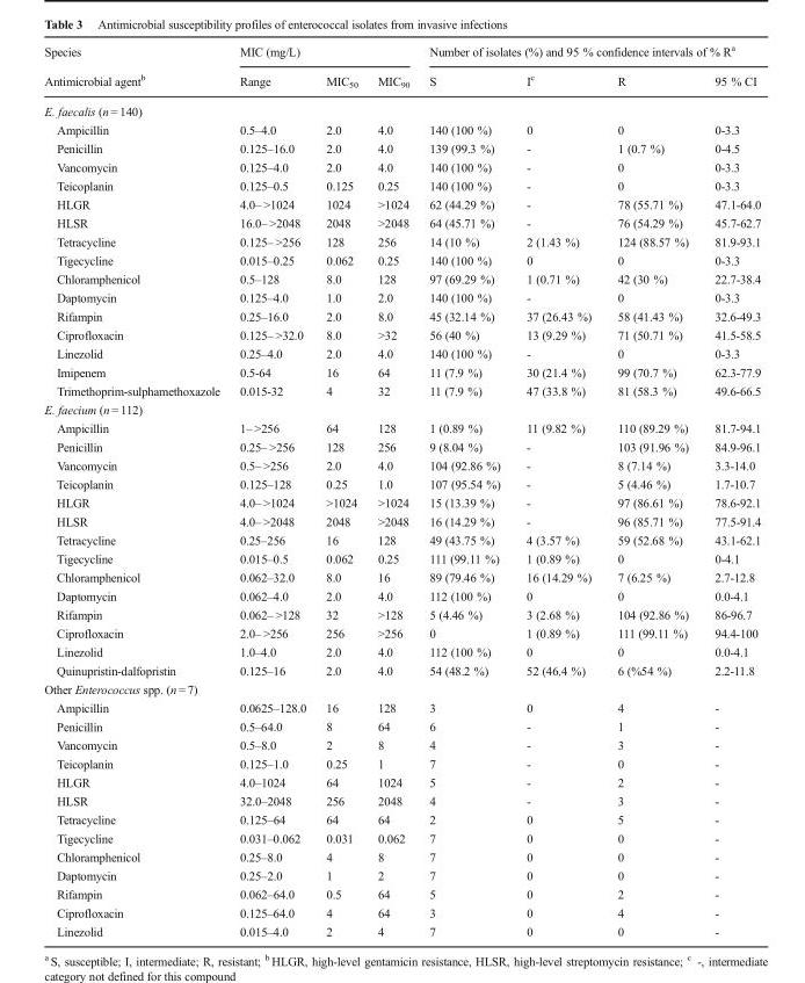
<table><thead><tr><td rowspan="2">Species Antimicrobial agent<sup>b</sup></td><td colspan="3">MIC (mg/L)</td><td colspan="4">Number of isolates (%) and 95 % confidence intervals of % R<sup>a</sup></td></tr><tr><td>Range</td><td>MIC<sub>50</sub></td><td>MIC<sub>90</sub></td><td>S</td><td>I<sup>c</sup></td><td>R</td><td>95 % CI</td></tr></thead><tbody><tr><td colspan="8">E. faecalis (n = 140)</td></tr><tr><td>Ampicillin</td><td>0.5–4.0</td><td>2.0</td><td>4.0</td><td>140 (100 %)</td><td>0</td><td>0</td><td>0-3.3</td></tr><tr><td>Penicillin</td><td>0.125–16.0</td><td>2.0</td><td>4.0</td><td>139 (99.3 %)</td><td>-</td><td>1 (0.7 %)</td><td>0-4.5</td></tr><tr><td>Vancomycin</td><td>0.125–4.0</td><td>2.0</td><td>4.0</td><td>140 (100 %)</td><td>-</td><td>0</td><td>0-3.3</td></tr><tr><td>Teicoplanin</td><td>0.125–0.5</td><td>0.125</td><td>0.25</td><td>140 (100 %)</td><td>-</td><td>0</td><td>0-3.3</td></tr><tr><td>HLGR</td><td>4.0– &gt;1024</td><td>1024</td><td>&gt;1024</td><td>62 (44.29 %)</td><td>-</td><td>78 (55.71 %)</td><td>47.1-64.0</td></tr><tr><td>HLSR</td><td>16.0– &gt;2048</td><td>2048</td><td>&gt;2048</td><td>64 (45.71 %)</td><td>-</td><td>76 (54.29 %)</td><td>45.7-62.7</td></tr><tr><td>Tetracycline</td><td>0.125– &gt;256</td><td>128</td><td>256</td><td>14 (10 %)</td><td>2 (1.43 %)</td><td>124 (88.57 %)</td><td>81.9-93.1</td></tr><tr><td>Tigecycline</td><td>0.015–0.25</td><td>0.062</td><td>0.25</td><td>140 (100 %)</td><td>0</td><td>0</td><td>0-3.3</td></tr><tr><td>Chloramphenicol</td><td>0.5–128</td><td>8.0</td><td>128</td><td>97 (69.29 %)</td><td>1 (0.71 %)</td><td>42 (30 %)</td><td>22.7-38.4</td></tr><tr><td>Daptomycin</td><td>0.125–4.0</td><td>1.0</td><td>2.0</td><td>140 (100 %)</td><td>-</td><td>0</td><td>0-3.3</td></tr><tr><td>Rifampin</td><td>0.25–16.0</td><td>2.0</td><td>8.0</td><td>45 (32.14 %)</td><td>37 (26.43 %)</td><td>58 (41.43 %)</td><td>32.6-49.3</td></tr><tr><td>Ciprofloxacin</td><td>0.125– &gt;32.0</td><td>8.0</td><td>&gt;32</td><td>56 (40 %)</td><td>13 (9.29 %)</td><td>71 (50.71 %)</td><td>41.5-58.5</td></tr><tr><td>Linezolid</td><td>0.25–4.0</td><td>2.0</td><td>4.0</td><td>140 (100 %)</td><td>-</td><td>0</td><td>0-3.3</td></tr><tr><td>Imipenem</td><td>0.5-64</td><td>16</td><td>64</td><td>11 (7.9 %)</td><td>30 (21.4 %)</td><td>99 (70.7 %)</td><td>62.3-77.9</td></tr><tr><td>Trimethoprim-sulphamethoxazole</td><td>0.015-32</td><td>4</td><td>32</td><td>11 (7.9 %)</td><td>47 (33.8 %)</td><td>81 (58.3 %)</td><td>49.6-66.5</td></tr><tr><td colspan="8">E. faecium (n = 112)</td></tr><tr><td>Ampicillin</td><td>1– &gt;256</td><td>64</td><td>128</td><td>1 (0.89 %)</td><td>11 (9.82 %)</td><td>110 (89.29 %)</td><td>81.7-94.1</td></tr><tr><td>Penicillin</td><td>0.25– &gt;256</td><td>128</td><td>256</td><td>9 (8.04 %)</td><td>-</td><td>103 (91.96 %)</td><td>84.9-96.1</td></tr><tr><td>Vancomycin</td><td>0.5– &gt;256</td><td>2.0</td><td>4.0</td><td>104 (92.86 %)</td><td>-</td><td>8 (7.14 %)</td><td>3.3-14.0</td></tr><tr><td>Teicoplanin</td><td>0.125–128</td><td>0.25</td><td>1.0</td><td>107 (95.54 %)</td><td>-</td><td>5 (4.46 %)</td><td>1.7-10.7</td></tr><tr><td>HLGR</td><td>4.0– &gt;1024</td><td>&gt;1024</td><td>&gt;1024</td><td>15 (13.39 %)</td><td>-</td><td>97 (86.61 %)</td><td>78.6-92.1</td></tr><tr><td>HLSR</td><td>4.0– &gt;2048</td><td>2048</td><td>&gt;2048</td><td>16 (14.29 %)</td><td>-</td><td>96 (85.71 %)</td><td>77.5-91.4</td></tr><tr><td>Tetracycline</td><td>0.25–256</td><td>16</td><td>128</td><td>49 (43.75 %)</td><td>4 (3.57 %)</td><td>59 (52.68 %)</td><td>43.1-62.1</td></tr><tr><td>Tigecycline</td><td>0.015–0.5</td><td>0.062</td><td>0.25</td><td>111 (99.11 %)</td><td>1 (0.89 %)</td><td>0</td><td>0-4.1</td></tr><tr><td>Chloramphenicol</td><td>0.062–32.0</td><td>8.0</td><td>16</td><td>89 (79.46 %)</td><td>16 (14.29 %)</td><td>7 (6.25 %)</td><td>2.7-12.8</td></tr><tr><td>Daptomycin</td><td>0.062–4.0</td><td>2.0</td><td>4.0</td><td>112 (100 %)</td><td>0</td><td>0</td><td>0.0-4.1</td></tr><tr><td>Rifampin</td><td>0.062– &gt;128</td><td>32</td><td>&gt;128</td><td>5 (4.46 %)</td><td>3 (2.68 %)</td><td>104 (92.86 %)</td><td>86-96.7</td></tr><tr><td>Ciprofloxacin</td><td>2.0– &gt;256</td><td>256</td><td>&gt;256</td><td>0</td><td>1 (0.89 %)</td><td>111 (99.11 %)</td><td>94.4-100</td></tr><tr><td>Linezolid</td><td>1.0–4.0</td><td>2.0</td><td>4.0</td><td>112 (100 %)</td><td>0</td><td>0</td><td>0.0-4.1</td></tr><tr><td>Quinupristin-dalfopristin</td><td>0.125–16</td><td>2.0</td><td>4.0</td><td>54 (48.2 %)</td><td>52 (46.4 %)</td><td>6 (%54 %)</td><td>2.2-11.8</td></tr><tr><td colspan="8">Other Enterococcus spp. (n = 7)</td></tr><tr><td>Ampicillin</td><td>0.0625–128.0</td><td>16</td><td>128</td><td>3</td><td>0</td><td>4</td><td>-</td></tr><tr><td>Penicillin</td><td>0.5–64.0</td><td>8</td><td>64</td><td>6</td><td>-</td><td>1</td><td>-</td></tr><tr><td>Vancomycin</td><td>0.5–8.0</td><td>2</td><td>8</td><td>4</td><td>-</td><td>3</td><td>-</td></tr><tr><td>Teicoplanin</td><td>0.125–1.0</td><td>0.25</td><td>1</td><td>7</td><td>-</td><td>0</td><td>-</td></tr><tr><td>HLGR</td><td>4.0–1024</td><td>64</td><td>1024</td><td>5</td><td>-</td><td>2</td><td>-</td></tr><tr><td>HLSR</td><td>32.0–2048</td><td>256</td><td>2048</td><td>4</td><td>-</td><td>3</td><td>-</td></tr><tr><td>Tetracycline</td><td>0.125–64</td><td>64</td><td>64</td><td>2</td><td>0</td><td>5</td><td>-</td></tr><tr><td>Tigecycline</td><td>0.031–0.062</td><td>0.031</td><td>0.062</td><td>7</td><td>0</td><td>0</td><td>-</td></tr><tr><td>Chloramphenicol</td><td>0.25–8.0</td><td>4</td><td>8</td><td>7</td><td>0</td><td>0</td><td>-</td></tr><tr><td>Daptomycin</td><td>0.25–2.0</td><td>1</td><td>2</td><td>7</td><td>0</td><td>0</td><td>-</td></tr><tr><td>Rifampin</td><td>0.062–64.0</td><td>0.5</td><td>64</td><td>5</td><td>0</td><td>2</td><td>-</td></tr><tr><td>Ciprofloxacin</td><td>0.125–64.0</td><td>4</td><td>64</td><td>3</td><td>0</td><td>4</td><td>-</td></tr><tr><td>Linezolid</td><td>0.015–4.0</td><td>2</td><td>4</td><td>7</td><td>0</td><td>0</td><td>-</td></tr></tbody></table>